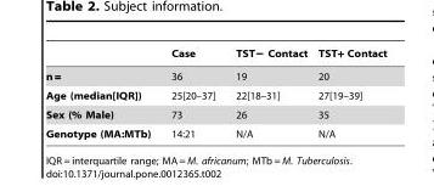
<table><thead><tr><td></td><td>Case</td><td>TST− Contact</td><td>TST+ Contact</td></tr></thead><tbody><tr><td>n ==</td><td>36</td><td>19</td><td>20</td></tr><tr><td>Age (median[IQR])</td><td>25[20–37]</td><td>22[18–31]</td><td>27[19–39]</td></tr><tr><td>Sex (% Male)</td><td>73</td><td>26</td><td>35</td></tr><tr><td>Genotype (MA:MTb)</td><td>14:21</td><td>N/A</td><td>N/A</td></tr></tbody></table>